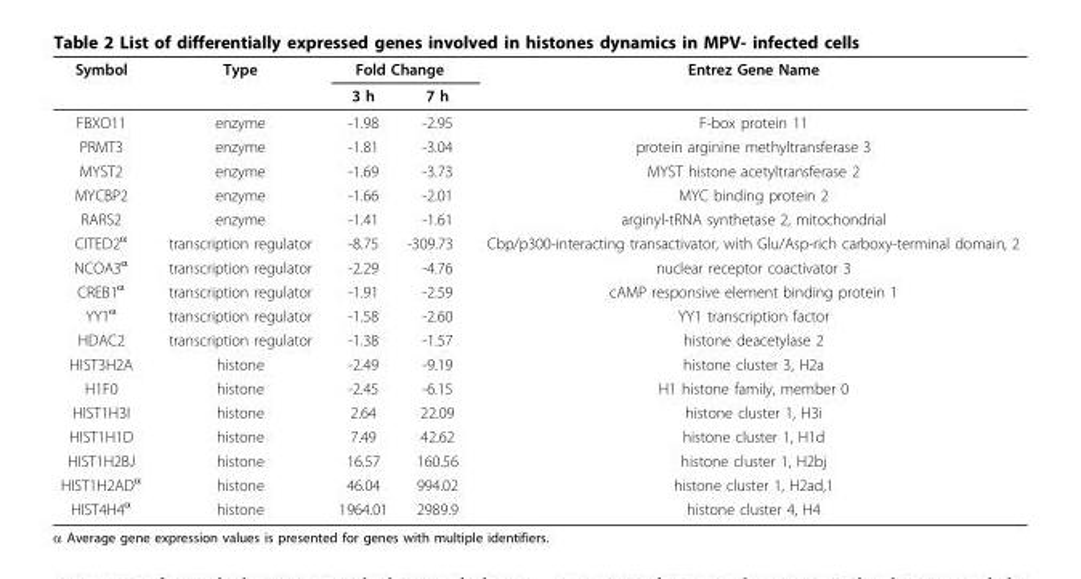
<table><thead><tr><td rowspan="2">Symbol</td><td rowspan="2">Type</td><td colspan="2">Fold Change</td><td rowspan="2">Entrez Gene Name</td></tr><tr><td>3 h</td><td>7 h</td></tr></thead><tbody><tr><td>FBXO11</td><td>enzyme</td><td>-1.98</td><td>-2.95</td><td>F-box protein 11</td></tr><tr><td>PRMT3</td><td>enzyme</td><td>-1.81</td><td>-3.04</td><td>protein arginine methyltransferase 3</td></tr><tr><td>MYST2</td><td>enzyme</td><td>-1.69</td><td>-3.73</td><td>MYST histone acetyltransferase 2</td></tr><tr><td>MYCBP2</td><td>enzyme</td><td>-1.66</td><td>-2.01</td><td>MYC binding protein 2</td></tr><tr><td>RARS2</td><td>enzyme</td><td>-1.41</td><td>-1.61</td><td>arginyl-tRNA synthetase 2, mitochondrial</td></tr><tr><td>CITED2<sup>α</sup></td><td>transcription regulator</td><td>-8.75</td><td>-309.73</td><td>Cbp/p300-interacting transactivator, with Glu/Asp-rich carboxy-terminal domain, 2</td></tr><tr><td>NCOA3<sup>α</sup></td><td>transcription regulator</td><td>-2.29</td><td>-4.76</td><td>nuclear receptor coactivator 3</td></tr><tr><td>CREB1<sup>α</sup></td><td>transcription regulator</td><td>-1.91</td><td>-2.59</td><td>cAMP responsive element binding protein 1</td></tr><tr><td>YY1<sup>α</sup></td><td>transcription regulator</td><td>-1.58</td><td>-2.60</td><td>YY1 transcription factor</td></tr><tr><td>HDAC2</td><td>transcription regulator</td><td>-1.38</td><td>-1.57</td><td>histone deacetylase 2</td></tr><tr><td>HIST3H2A</td><td>histone</td><td>-2.49</td><td>-9.19</td><td>histone cluster 3, H2a</td></tr><tr><td>H1F0</td><td>histone</td><td>-2.45</td><td>-6.15</td><td>H1 histone family, member 0</td></tr><tr><td>HIST1H3I</td><td>histone</td><td>2.64</td><td>22.09</td><td>histone cluster 1, H3i</td></tr><tr><td>HIST1H1D</td><td>histone</td><td>7.49</td><td>42.62</td><td>histone cluster 1, H1d</td></tr><tr><td>HIST1H2BJ</td><td>histone</td><td>16.57</td><td>160.56</td><td>histone cluster 1, H2bj</td></tr><tr><td>HIST1H2AD<sup>α</sup></td><td>histone</td><td>46.04</td><td>994.02</td><td>histone cluster 1, H2ad,1</td></tr><tr><td>HIST4H4<sup>α</sup></td><td>histone</td><td>1964.01</td><td>2989.9</td><td>histone cluster 4, H4</td></tr></tbody></table>